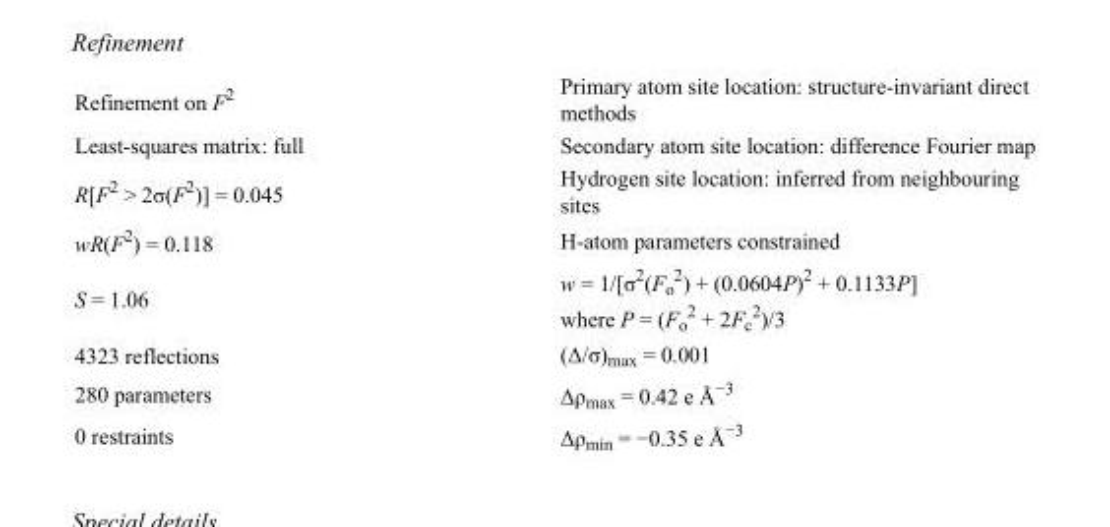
<table><tbody><tr><td>Refinement on F<sup>2</sup></td><td>Primary atom site location: structure-invariant direct methods</td></tr><tr><td>Least-squares matrix: full</td><td>Secondary atom site location: difference Fourier map</td></tr><tr><td>R[F<sup>2</sup> &gt; 2σ(F<sup>2</sup>)] = 0.045</td><td>Hydrogen site location: inferred from neighbouring sites</td></tr><tr><td>wR(F<sup>2</sup>) = 0.118</td><td>H-atom parameters constrained</td></tr><tr><td>S = 1.06</td><td>w = 1/[σ<sup>2</sup>(F<sub>o</sub> <sup>2</sup>) + (0.0604P)<sup>2</sup> + 0.1133P] where P = (F<sub>o</sub> <sup>2</sup> + 2F<sub>c</sub> <sup>2</sup>)/3</td></tr><tr><td>4323 reflections</td><td>(Δ/σ)<sub>max</sub> = 0.001</td></tr><tr><td>280 parameters</td><td>Δρ<sub>max</sub> = 0.42 e Å<sup>−3</sup></td></tr><tr><td>0 restraints</td><td>Δρ<sub>min</sub> = −0.35 e Å<sup>−3</sup></td></tr></tbody></table>